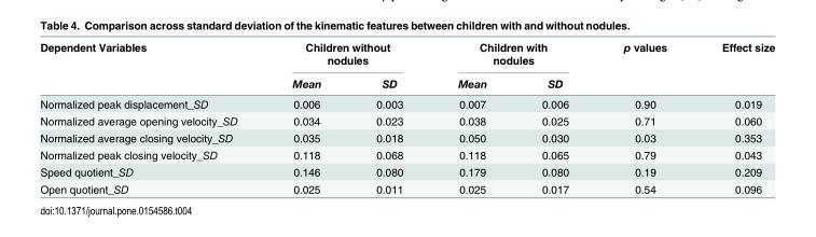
<table><thead><tr><td rowspan="2">Dependent Variables</td><td colspan="2">Children without nodules</td><td colspan="2">Children with nodules</td><td rowspan="2">p values</td><td rowspan="2">Effect size</td></tr><tr><td>Mean</td><td>SD</td><td>Mean</td><td>SD</td></tr></thead><tbody><tr><td>Normalized peak displacement_SD</td><td>0.006</td><td>0.003</td><td>0.007</td><td>0.006</td><td>0.90</td><td>0.019</td></tr><tr><td>Normalized average opening velocity_SD</td><td>0.034</td><td>0.023</td><td>0.038</td><td>0.025</td><td>0.71</td><td>0.060</td></tr><tr><td>Normalized average closing velocity_SD</td><td>0.035</td><td>0.018</td><td>0.050</td><td>0.030</td><td>0.03</td><td>0.353</td></tr><tr><td>Normalized peak closing velocity_SD</td><td>0.118</td><td>0.068</td><td>0.118</td><td>0.065</td><td>0.79</td><td>0.043</td></tr><tr><td>Speed quotient_SD</td><td>0.146</td><td>0.080</td><td>0.179</td><td>0.080</td><td>0.19</td><td>0.209</td></tr><tr><td>Open quotient_SD</td><td>0.025</td><td>0.011</td><td>0.025</td><td>0.017</td><td>0.54</td><td>0.096</td></tr></tbody></table>